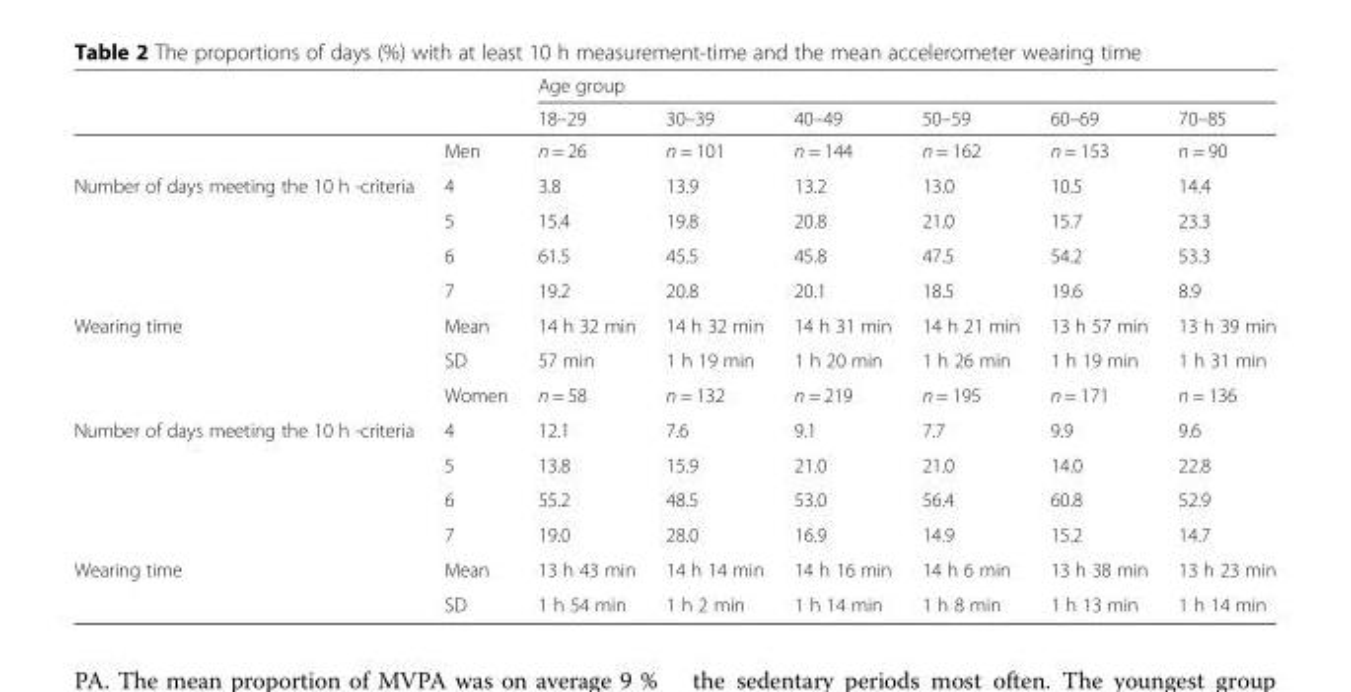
<table><thead><tr><td rowspan="2"></td><td rowspan="2"></td><td colspan="6">Age group</td></tr><tr><td>18–29</td><td>30–39</td><td>40–49</td><td>50–59</td><td>60–69</td><td>70–85</td></tr></thead><tbody><tr><td></td><td>Men</td><td>n = 26</td><td>n = 101</td><td>n = 144</td><td>n = 162</td><td>n = 153</td><td>n = 90</td></tr><tr><td rowspan="4">Number of days meeting the 10 h -criteria</td><td>4</td><td>3.8</td><td>13.9</td><td>13.2</td><td>13.0</td><td>10.5</td><td>14.4</td></tr><tr><td>5</td><td>15.4</td><td>19.8</td><td>20.8</td><td>21.0</td><td>15.7</td><td>23.3</td></tr><tr><td>6</td><td>61.5</td><td>45.5</td><td>45.8</td><td>47.5</td><td>54.2</td><td>53.3</td></tr><tr><td>7</td><td>19.2</td><td>20.8</td><td>20.1</td><td>18.5</td><td>19.6</td><td>8.9</td></tr><tr><td rowspan="3">Wearing time</td><td>Mean</td><td>14 h 32 min</td><td>14 h 32 min</td><td>14 h 31 min</td><td>14 h 21 min</td><td>13 h 57 min</td><td>13 h 39 min</td></tr><tr><td>SD</td><td>57 min</td><td>1 h 19 min</td><td>1 h 20 min</td><td>1 h 26 min</td><td>1 h 19 min</td><td>1 h 31 min</td></tr><tr><td>Women</td><td>n = 58</td><td>n = 132</td><td>n = 219</td><td>n = 195</td><td>n = 171</td><td>n = 136</td></tr><tr><td rowspan="4">Number of days meeting the 10 h -criteria</td><td>4</td><td>12.1</td><td>7.6</td><td>9.1</td><td>7.7</td><td>9.9</td><td>9.6</td></tr><tr><td>5</td><td>13.8</td><td>15.9</td><td>21.0</td><td>21.0</td><td>14.0</td><td>22.8</td></tr><tr><td>6</td><td>55.2</td><td>48.5</td><td>53.0</td><td>56.4</td><td>60.8</td><td>52.9</td></tr><tr><td>7</td><td>19.0</td><td>28.0</td><td>16.9</td><td>14.9</td><td>15.2</td><td>14.7</td></tr><tr><td rowspan="2">Wearing time</td><td>Mean</td><td>13 h 43 min</td><td>14 h 14 min</td><td>14 h 16 min</td><td>14 h 6 min</td><td>13 h 38 min</td><td>13 h 23 min</td></tr><tr><td>SD</td><td>1 h 54 min</td><td>1 h 2 min</td><td>1 h 14 min</td><td>1 h 8 min</td><td>1 h 13 min</td><td>1 h 14 min</td></tr></tbody></table>